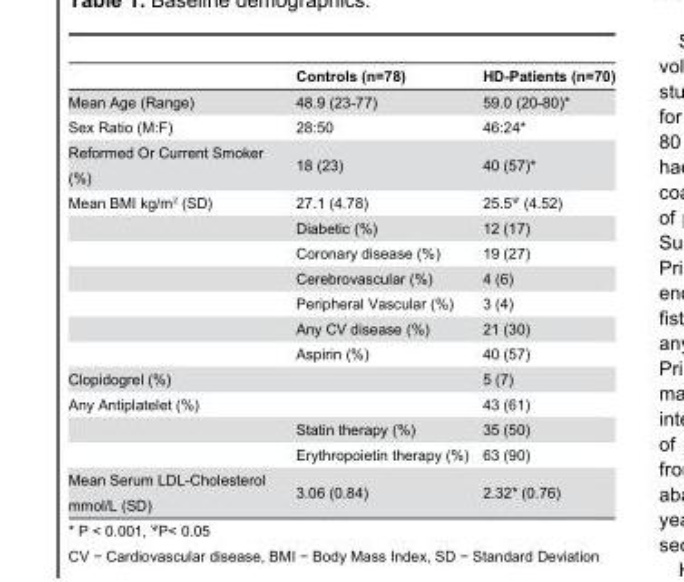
<table><thead><tr><td></td><td>Controls (n=78)</td><td>HD-Patients (n=70)</td></tr></thead><tbody><tr><td>Mean Age (Range)</td><td>48.9 (23-77)</td><td>59.0 (20-80)*</td></tr><tr><td>Sex Ratio (M:F)</td><td>28:50</td><td>46:24*</td></tr><tr><td>Reformed Or Current Smoker (%)</td><td>18 (23)</td><td>40 (57)*</td></tr><tr><td rowspan="7">Mean BMI kg/m<sup>2</sup> (SD)</td><td>27.1 (4.78)</td><td>25.5<sup>Ѱ</sup> (4.52)</td></tr><tr><td>Diabetic (%)</td><td>12 (17)</td></tr><tr><td>Coronary disease (%)</td><td>19 (27)</td></tr><tr><td>Cerebrovascular (%)</td><td>4 (6)</td></tr><tr><td>Peripheral Vascular (%)</td><td>3 (4)</td></tr><tr><td>Any CV disease (%)</td><td>21 (30)</td></tr><tr><td>Aspirin (%)</td><td>40 (57)</td></tr><tr><td>Clopidogrel (%)</td><td></td><td>5 (7)</td></tr><tr><td rowspan="3">Any Antiplatelet (%)</td><td></td><td>43 (61)</td></tr><tr><td>Statin therapy (%)</td><td>35 (50)</td></tr><tr><td>Erythropoietin therapy (%)</td><td>63 (90)</td></tr><tr><td>Mean Serum LDL-Cholesterol mmol/L (SD)</td><td>3.06 (0.84)</td><td>2.32* (0.76)</td></tr></tbody></table>